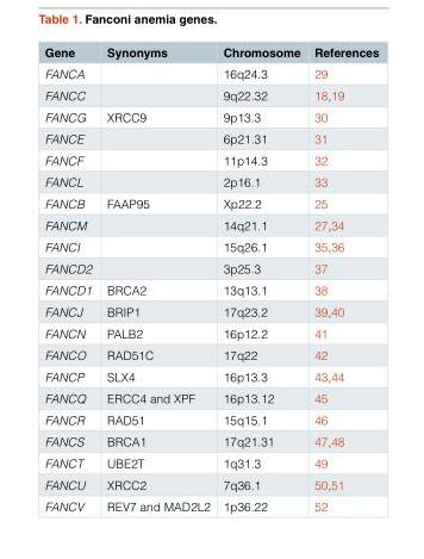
<table><thead><tr><td>Gene</td><td>Synonyms</td><td>Chromosome</td><td>References</td></tr></thead><tbody><tr><td>FANCA</td><td></td><td>16q24.3</td><td>29</td></tr><tr><td>FANCC</td><td></td><td>9q22.32</td><td>18,19</td></tr><tr><td>FANCG</td><td>XRCC9</td><td>9p13.3</td><td>30</td></tr><tr><td>FANCE</td><td></td><td>6p21.31</td><td>31</td></tr><tr><td>FANCF</td><td></td><td>11p14.3</td><td>32</td></tr><tr><td>FANCL</td><td></td><td>2p16.1</td><td>33</td></tr><tr><td>FANCB</td><td>FAAP95</td><td>Xp22.2</td><td>25</td></tr><tr><td>FANCM</td><td></td><td>14q21.1</td><td>27,34</td></tr><tr><td>FANCI</td><td></td><td>15q26.1</td><td>35,36</td></tr><tr><td>FANCD2</td><td></td><td>3p25.3</td><td>37</td></tr><tr><td>FANCD1</td><td>BRCA2</td><td>13q13.1</td><td>38</td></tr><tr><td>FANCJ</td><td>BRIP1</td><td>17q23.2</td><td>39,40</td></tr><tr><td>FANCN</td><td>PALB2</td><td>16p12.2</td><td>41</td></tr><tr><td>FANCO</td><td>RAD51C</td><td>17q22</td><td>42</td></tr><tr><td>FANCP</td><td>SLX4</td><td>16p13.3</td><td>43,44</td></tr><tr><td>FANCQ</td><td>ERCC4 and XPF</td><td>16p13.12</td><td>45</td></tr><tr><td>FANCR</td><td>RAD51</td><td>15q15.1</td><td>46</td></tr><tr><td>FANCS</td><td>BRCA1</td><td>17q21.31</td><td>47,48</td></tr><tr><td>FANCT</td><td>UBE2T</td><td>1q31.3</td><td>49</td></tr><tr><td>FANCU</td><td>XRCC2</td><td>7q36.1</td><td>50,51</td></tr><tr><td>FANCV</td><td>REV7 and MAD2L2</td><td>1p36.22</td><td>52</td></tr></tbody></table>